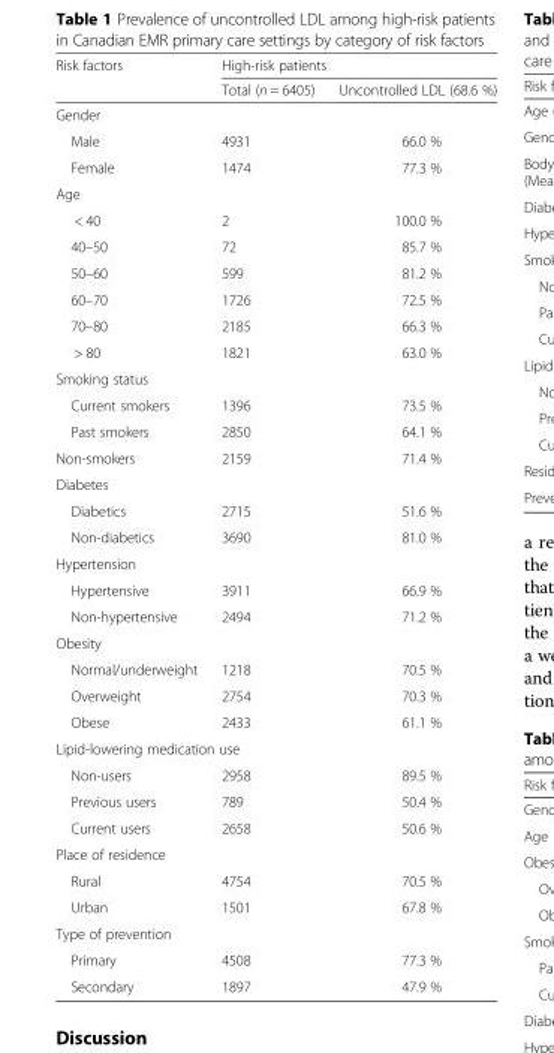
<table><thead><tr><td rowspan="2">Risk factors</td><td colspan="2">High-risk patients</td></tr><tr><td>Total (n = 6405)</td><td>Uncontrolled LDL (68.6 %)</td></tr></thead><tbody><tr><td colspan="3">Gender</td></tr><tr><td>Male</td><td>4931</td><td>66.0 %</td></tr><tr><td>Female</td><td>1474</td><td>77.3 %</td></tr><tr><td colspan="3">Age</td></tr><tr><td>&lt; 40</td><td>2</td><td>100.0 %</td></tr><tr><td>40–50</td><td>72</td><td>85.7 %</td></tr><tr><td>50–60</td><td>599</td><td>81.2 %</td></tr><tr><td>60–70</td><td>1726</td><td>72.5 %</td></tr><tr><td>70–80</td><td>2185</td><td>66.3 %</td></tr><tr><td>&gt; 80</td><td>1821</td><td>63.0 %</td></tr><tr><td colspan="3">Smoking status</td></tr><tr><td>Current smokers</td><td>1396</td><td>73.5 %</td></tr><tr><td>Past smokers</td><td>2850</td><td>64.1 %</td></tr><tr><td>Non-smokers</td><td>2159</td><td>71.4 %</td></tr><tr><td colspan="3">Diabetes</td></tr><tr><td>Diabetics</td><td>2715</td><td>51.6 %</td></tr><tr><td>Non-diabetics</td><td>3690</td><td>81.0 %</td></tr><tr><td colspan="3">Hypertension</td></tr><tr><td>Hypertensive</td><td>3911</td><td>66.9 %</td></tr><tr><td>Non-hypertensive</td><td>2494</td><td>71.2 %</td></tr><tr><td colspan="3">Obesity</td></tr><tr><td>Normal/underweight</td><td>1218</td><td>70.5 %</td></tr><tr><td>Overweight</td><td>2754</td><td>70.3 %</td></tr><tr><td>Obese</td><td>2433</td><td>61.1 %</td></tr><tr><td colspan="3">Lipid-lowering medication use</td></tr><tr><td>Non-users</td><td>2958</td><td>89.5 %</td></tr><tr><td>Previous users</td><td>789</td><td>50.4 %</td></tr><tr><td>Current users</td><td>2658</td><td>50.6 %</td></tr><tr><td colspan="3">Place of residence</td></tr><tr><td>Rural</td><td>4754</td><td>70.5 %</td></tr><tr><td>Urban</td><td>1501</td><td>67.8 %</td></tr><tr><td colspan="3">Type of prevention</td></tr><tr><td>Primary</td><td>4508</td><td>77.3 %</td></tr><tr><td>Secondary</td><td>1897</td><td>47.9 %</td></tr></tbody></table>